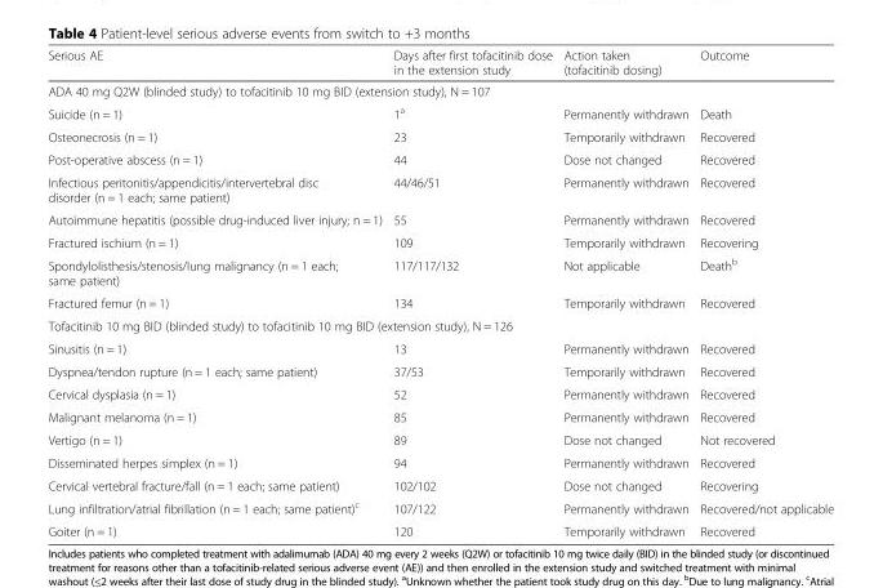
<table><thead><tr><td>Serious AE</td><td>Days after first tofacitinib dose in the extension study</td><td>Action taken (tofacitinib dosing)</td><td>Outcome</td></tr></thead><tbody><tr><td colspan="4">ADA 40 mg Q2W (blinded study) to tofacitinib 10 mg BID (extension study), N = 107</td></tr><tr><td>Suicide (n = 1)</td><td>1<sup>a</sup></td><td>Permanently withdrawn</td><td>Death</td></tr><tr><td>Osteonecrosis (n = 1)</td><td>23</td><td>Temporarily withdrawn</td><td>Recovered</td></tr><tr><td>Post-operative abscess (n = 1)</td><td>44</td><td>Dose not changed</td><td>Recovered</td></tr><tr><td>Infectious peritonitis/appendicitis/intervertebral disc disorder (n = 1 each; same patient)</td><td>44/46/51</td><td>Permanently withdrawn</td><td>Recovered</td></tr><tr><td>Autoimmune hepatitis (possible drug-induced liver injury; n = 1)</td><td>55</td><td>Permanently withdrawn</td><td>Recovered</td></tr><tr><td>Fractured ischium (n = 1)</td><td>109</td><td>Temporarily withdrawn</td><td>Recovering</td></tr><tr><td>Spondylolisthesis/stenosis/lung malignancy (n = 1 each; same patient)</td><td>117/117/132</td><td>Not applicable</td><td>Death<sup>b</sup></td></tr><tr><td>Fractured femur (n = 1)</td><td>134</td><td>Temporarily withdrawn</td><td>Recovered</td></tr><tr><td colspan="4">Tofacitinib 10 mg BID (blinded study) to tofacitinib 10 mg BID (extension study), N = 126</td></tr><tr><td>Sinusitis (n = 1)</td><td>13</td><td>Permanently withdrawn</td><td>Recovered</td></tr><tr><td>Dyspnea/tendon rupture (n = 1 each; same patient)</td><td>37/53</td><td>Temporarily withdrawn</td><td>Recovered</td></tr><tr><td>Cervical dysplasia (n = 1)</td><td>52</td><td>Permanently withdrawn</td><td>Recovered</td></tr><tr><td>Malignant melanoma (n = 1)</td><td>85</td><td>Permanently withdrawn</td><td>Recovered</td></tr><tr><td>Vertigo (n = 1)</td><td>89</td><td>Dose not changed</td><td>Not recovered</td></tr><tr><td>Disseminated herpes simplex (n = 1)</td><td>94</td><td>Permanently withdrawn</td><td>Recovered</td></tr><tr><td>Cervical vertebral fracture/fall (n = 1 each; same patient)</td><td>102/102</td><td>Dose not changed</td><td>Recovering</td></tr><tr><td>Lung infiltration/atrial fibrillation (n = 1 each; same patient)<sup>c</sup></td><td>107/122</td><td>Permanently withdrawn</td><td>Recovered/not applicable</td></tr><tr><td>Goiter (n = 1)</td><td>120</td><td>Temporarily withdrawn</td><td>Recovered</td></tr></tbody></table>